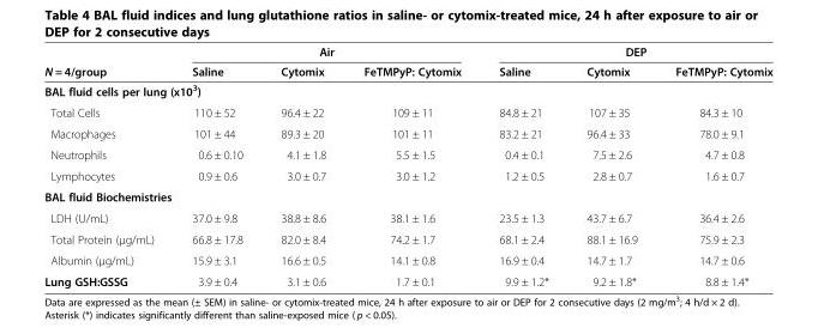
<table><thead><tr><td rowspan="2">N = 4/group</td><td colspan="3">Air</td><td colspan="3">DEP</td></tr><tr><td>Saline</td><td>Cytomix</td><td>FeTMPyP: Cytomix</td><td>Saline</td><td>Cytomix</td><td>FeTMPyP: Cytomix</td></tr></thead><tbody><tr><td colspan="7">BAL fluid cells per lung (x10<sup>3</sup>)</td></tr><tr><td>Total Cells</td><td>110 ± 52</td><td>96.4 ± 22</td><td>109 ± 11</td><td>84.8 ± 21</td><td>107 ± 35</td><td>84.3 ± 10</td></tr><tr><td>Macrophages</td><td>101 ± 44</td><td>89.3 ± 20</td><td>101 ± 11</td><td>83.2 ± 21</td><td>96.4 ± 33</td><td>78.0 ± 9.1</td></tr><tr><td>Neutrophils</td><td>0.6 ± 0.10</td><td>4.1 ± 1.8</td><td>5.5 ± 1.5</td><td>0.4 ± 0.1</td><td>7.5 ± 2.6</td><td>4.7 ± 0.8</td></tr><tr><td>Lymphocytes</td><td>0.9 ± 0.6</td><td>3.0 ± 0.7</td><td>3.0 ± 1.2</td><td>1.2 ± 0.5</td><td>2.8 ± 0.7</td><td>1.6 ± 0.7</td></tr><tr><td colspan="7">BAL fluid Biochemistries</td></tr><tr><td>LDH (U/mL)</td><td>37.0 ± 9.8</td><td>38.8 ± 8.6</td><td>38.1 ± 1.6</td><td>23.5 ± 1.3</td><td>43.7 ± 6.7</td><td>36.4 ± 2.6</td></tr><tr><td>Total Protein (μg/mL)</td><td>66.8 ± 17.8</td><td>82.0 ± 8.4</td><td>74.2 ± 1.7</td><td>68.1 ± 2.4</td><td>88.1 ± 16.9</td><td>75.9 ± 2.3</td></tr><tr><td>Albumin (μg/mL)</td><td>15.9 ± 3.1</td><td>16.6 ± 0.5</td><td>14.1 ± 0.8</td><td>16.9 ± 0.4</td><td>14.7 ± 1.7</td><td>14.7 ± 0.6</td></tr><tr><td>Lung GSH:GSSG</td><td>3.9 ± 0.4</td><td>3.1 ± 0.6</td><td>1.7 ± 0.1</td><td>9.9 ± 1.2*</td><td>9.2 ± 1.8*</td><td>8.8 ± 1.4*</td></tr></tbody></table>